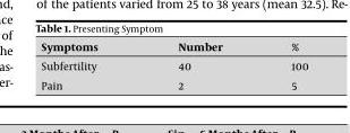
<table><thead><tr><td>Symptoms</td><td>Number</td><td>%</td></tr></thead><tbody><tr><td>Subfertility</td><td>40</td><td>100</td></tr><tr><td>Pain</td><td>2</td><td>5</td></tr></tbody></table>